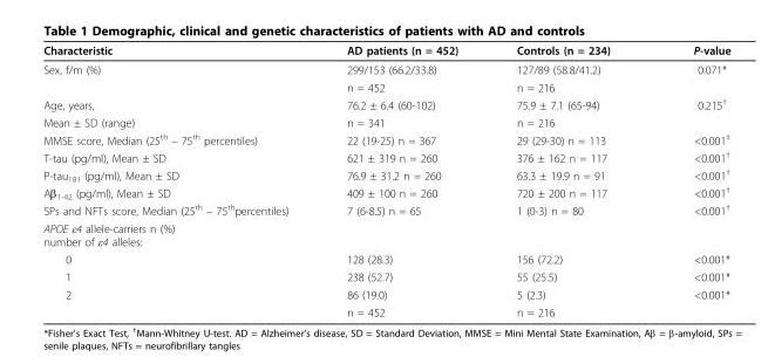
<table><thead><tr><td>Characteristic</td><td>AD patients (n = 452)</td><td>Controls (n = 234)</td><td>P-value</td></tr></thead><tbody><tr><td rowspan="2">Sex, f/m (%)</td><td>299/153 (66.2/33.8)</td><td>127/89 (58.8/41.2)</td><td>0.071*</td></tr><tr><td>n = 452</td><td>n = 216</td><td></td></tr><tr><td>Age, years,</td><td>76.2 ± 6.4 (60-102)</td><td>75.9 ± 7.1 (65-94)</td><td>0.215<sup>†</sup></td></tr><tr><td>Mean ± SD (range)</td><td>n = 341</td><td>n = 216</td><td></td></tr><tr><td>MMSE score, Median (25th – 75th percentiles)</td><td>22 (19-25) n = 367</td><td>29 (29-30) n = 113</td><td>&lt;0.001<sup>‡</sup></td></tr><tr><td>T-tau (pg/ml), Mean ± SD</td><td>621 ± 319 n = 260</td><td>376 ± 162 n = 117</td><td>&lt;0.001<sup>†</sup></td></tr><tr><td>P-tau<sub>181</sub> (pg/ml), Mean ± SD</td><td>76.9 ± 31.2 n = 260</td><td>63.3 ± 19.9 n = 91</td><td>&lt;0.001<sup>†</sup></td></tr><tr><td>Aβ<sub>1-42</sub> (pg/ml), Mean ± SD</td><td>409 ± 100 n = 260</td><td>720 ± 200 n = 117</td><td>&lt;0.001<sup>†</sup></td></tr><tr><td>SPs and NFTs score, Median (25th – 75thpercentiles)</td><td>7 (6-8.5) n = 65</td><td>1 (0-3) n = 80</td><td>&lt;0.001<sup>†</sup></td></tr><tr><td colspan="4">APOE ε4 allele-carriers n (%) number of ε4 alleles:</td></tr><tr><td>0</td><td>128 (28.3)</td><td>156 (72.2)</td><td>&lt;0.001*</td></tr><tr><td>1</td><td>238 (52.7)</td><td>55 (25.5)</td><td>&lt;0.001*</td></tr><tr><td rowspan="2">2</td><td>86 (19.0)</td><td>5 (2.3)</td><td>&lt;0.001*</td></tr><tr><td>n = 452</td><td>n = 216</td><td></td></tr></tbody></table>